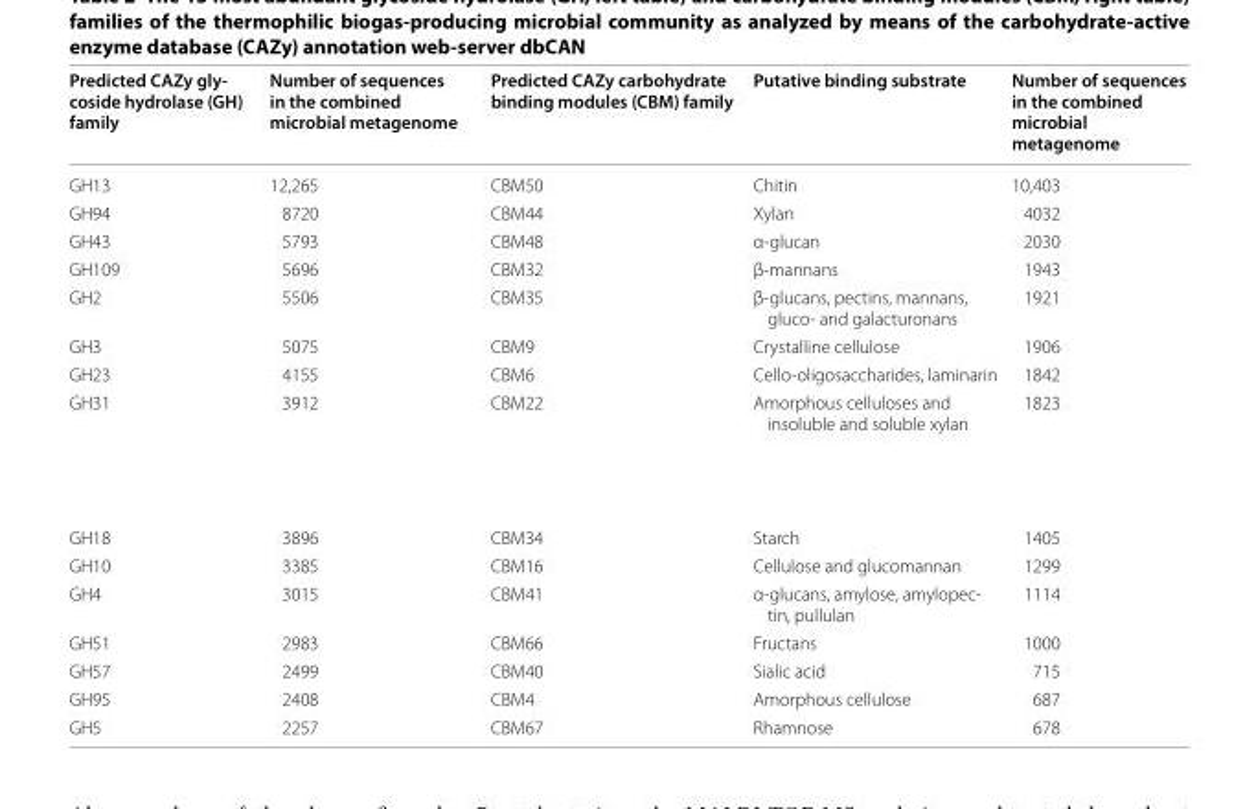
<table><thead><tr><td>Predicted CAZy gly‑ coside hydrolase (GH) family</td><td>Number of sequences in the combined microbial metagenome</td><td>Predicted CAZy carbohydrate binding modules (CBM) family</td><td>Putative binding substrate</td><td>Number of sequences in the combined microbial metagenome</td></tr></thead><tbody><tr><td>GH13</td><td>12,265</td><td>CBM50</td><td>Chitin</td><td>10,403</td></tr><tr><td>GH94</td><td>8720</td><td>CBM44</td><td>Xylan</td><td>4032</td></tr><tr><td>GH43</td><td>5793</td><td>CBM48</td><td>α-glucan</td><td>2030</td></tr><tr><td>GH109</td><td>5696</td><td>CBM32</td><td>β-mannans</td><td>1943</td></tr><tr><td>GH2</td><td>5506</td><td>CBM35</td><td>β-glucans, pectins, mannans, gluco- and galacturonans</td><td>1921</td></tr><tr><td>GH3</td><td>5075</td><td>CBM9</td><td>Crystalline cellulose</td><td>1906</td></tr><tr><td>GH23</td><td>4155</td><td>CBM6</td><td>Cello-oligosaccharides, laminarin</td><td>1842</td></tr><tr><td>GH31</td><td>3912</td><td>CBM22</td><td>Amorphous celluloses and insoluble and soluble xylan</td><td>1823</td></tr><tr><td>GH18</td><td>3896</td><td>CBM34</td><td>Starch</td><td>1405</td></tr><tr><td>GH10</td><td>3385</td><td>CBM16</td><td>Cellulose and glucomannan</td><td>1299</td></tr><tr><td>GH4</td><td>3015</td><td>CBM41</td><td>α-glucans, amylose, amylopec- tin, pullulan</td><td>1114</td></tr><tr><td>GH51</td><td>2983</td><td>CBM66</td><td>Fructans</td><td>1000</td></tr><tr><td>GH57</td><td>2499</td><td>CBM40</td><td>Sialic acid</td><td>715</td></tr><tr><td>GH95</td><td>2408</td><td>CBM4</td><td>Amorphous cellulose</td><td>687</td></tr><tr><td>GH5</td><td>2257</td><td>CBM67</td><td>Rhamnose</td><td>678</td></tr></tbody></table>